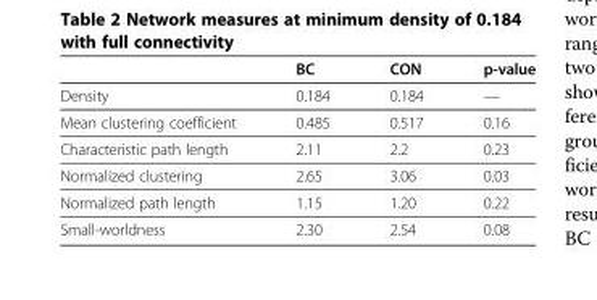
<table><thead><tr><td></td><td>BC</td><td>CON</td><td>p-value</td></tr></thead><tbody><tr><td>Density</td><td>0.184</td><td>0.184</td><td>—</td></tr><tr><td>Mean clustering coefficient</td><td>0.485</td><td>0.517</td><td>0.16</td></tr><tr><td>Characteristic path length</td><td>2.11</td><td>2.2</td><td>0.23</td></tr><tr><td>Normalized clustering</td><td>2.65</td><td>3.06</td><td>0.03</td></tr><tr><td>Normalized path length</td><td>1.15</td><td>1.20</td><td>0.22</td></tr><tr><td>Small-worldness</td><td>2.30</td><td>2.54</td><td>0.08</td></tr></tbody></table>